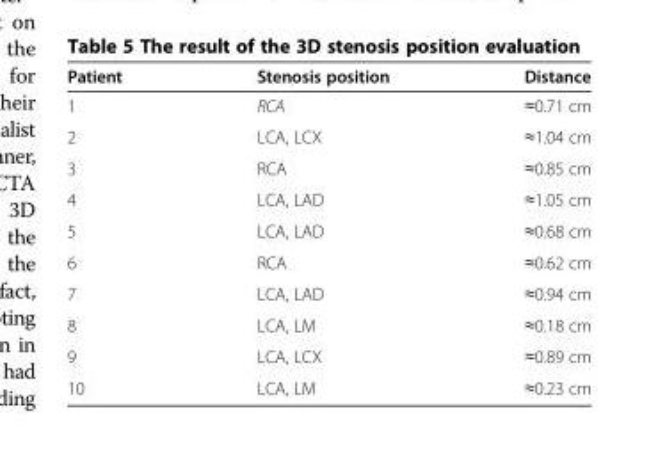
<table><thead><tr><td>Patient</td><td>Stenosis position</td><td>Distance</td></tr></thead><tbody><tr><td>1</td><td>RCA</td><td>≈0.71 cm</td></tr><tr><td>2</td><td>LCA, LCX</td><td>≈1.04 cm</td></tr><tr><td>3</td><td>RCA</td><td>≈0.85 cm</td></tr><tr><td>4</td><td>LCA, LAD</td><td>≈1.05 cm</td></tr><tr><td>5</td><td>LCA, LAD</td><td>≈0.68 cm</td></tr><tr><td>6</td><td>RCA</td><td>≈0.62 cm</td></tr><tr><td>7</td><td>LCA, LAD</td><td>≈0.94 cm</td></tr><tr><td>8</td><td>LCA, LM</td><td>≈0.18 cm</td></tr><tr><td>9</td><td>LCA, LCX</td><td>≈0.89 cm</td></tr><tr><td>10</td><td>LCA, LM</td><td>≈0.23 cm</td></tr></tbody></table>